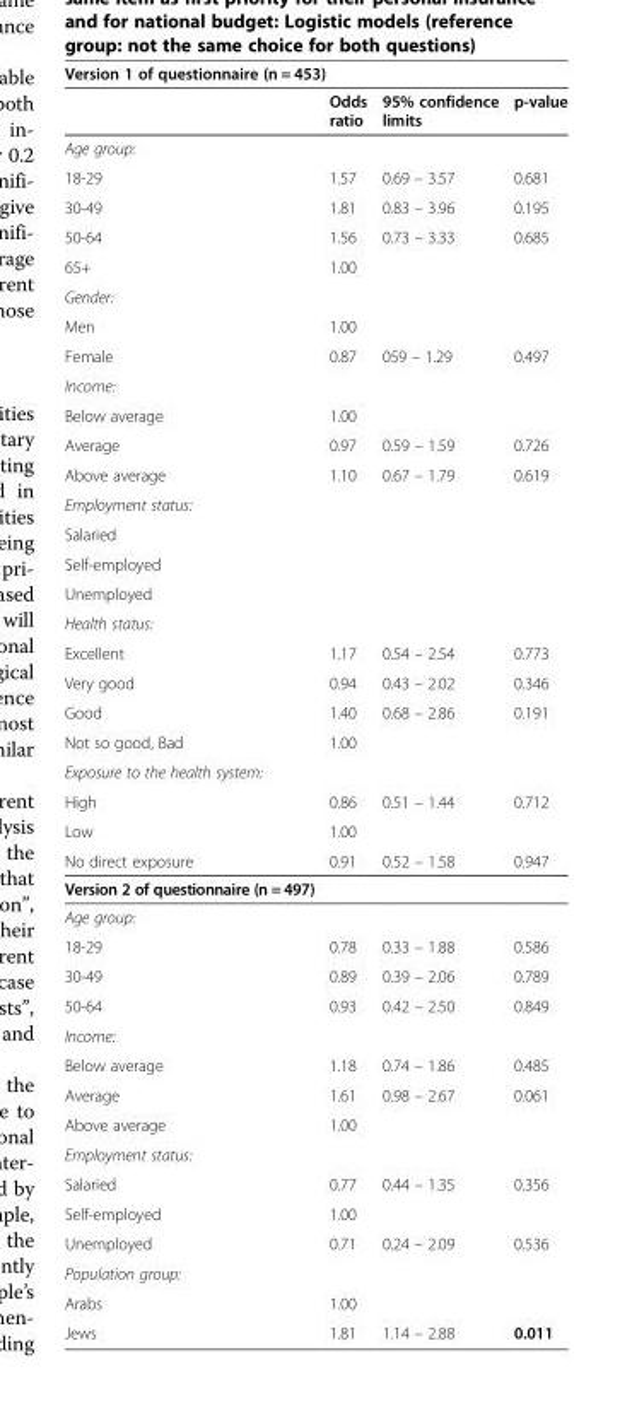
<table><thead><tr><td colspan="4">Version 1 of questionnaire (n = 453)</td></tr><tr><td></td><td>Odds ratio</td><td>95% confidence limits</td><td>p-value</td></tr></thead><tbody><tr><td colspan="4">Age group:</td></tr><tr><td>18-29</td><td>1.57</td><td>0.69 – 3.57</td><td>0.681</td></tr><tr><td>30-49</td><td>1.81</td><td>0.83 – 3.96</td><td>0.195</td></tr><tr><td>50-64</td><td>1.56</td><td>0.73 – 3.33</td><td>0.685</td></tr><tr><td>65+</td><td>1.00</td><td></td><td></td></tr><tr><td colspan="4">Gender:</td></tr><tr><td>Men</td><td>1.00</td><td></td><td></td></tr><tr><td>Female</td><td>0.87</td><td>059 – 1.29</td><td>0.497</td></tr><tr><td colspan="4">Income:</td></tr><tr><td>Below average</td><td>1.00</td><td></td><td></td></tr><tr><td>Average</td><td>0.97</td><td>0.59 – 1.59</td><td>0.726</td></tr><tr><td>Above average</td><td>1.10</td><td>0.67 – 1.79</td><td>0.619</td></tr><tr><td colspan="4">Employment status:</td></tr><tr><td colspan="4">Salaried</td></tr><tr><td colspan="4">Self-employed</td></tr><tr><td colspan="4">Unemployed</td></tr><tr><td colspan="4">Health status:</td></tr><tr><td>Excellent</td><td>1.17</td><td>0.54 – 2.54</td><td>0.773</td></tr><tr><td>Very good</td><td>0.94</td><td>0.43 – 2.02</td><td>0.346</td></tr><tr><td>Good</td><td>1.40</td><td>0.68 – 2.86</td><td>0.191</td></tr><tr><td>Not so good, Bad</td><td>1.00</td><td></td><td></td></tr><tr><td colspan="4">Exposure to the health system:</td></tr><tr><td>High</td><td>0.86</td><td>0.51 – 1.44</td><td>0.712</td></tr><tr><td>Low</td><td>1.00</td><td></td><td></td></tr><tr><td>No direct exposure</td><td>0.91</td><td>0.52 – 1.58</td><td>0.947</td></tr><tr><td colspan="4">Version 2 of questionnaire (n = 497)</td></tr><tr><td colspan="4">Age group:</td></tr><tr><td>18-29</td><td>0.78</td><td>0.33 – 1.88</td><td>0.586</td></tr><tr><td>30-49</td><td>0.89</td><td>0.39 – 2.06</td><td>0.789</td></tr><tr><td>50-64</td><td>0.93</td><td>0.42 – 2.50</td><td>0.849</td></tr><tr><td colspan="4">Income:</td></tr><tr><td>Below average</td><td>1.18</td><td>0.74 – 1.86</td><td>0.485</td></tr><tr><td>Average</td><td>1.61</td><td>0.98 – 2.67</td><td>0.061</td></tr><tr><td>Above average</td><td>1.00</td><td></td><td></td></tr><tr><td colspan="4">Employment status:</td></tr><tr><td>Salaried</td><td>0.77</td><td>0.44 – 1.35</td><td>0.356</td></tr><tr><td>Self-employed</td><td>1.00</td><td></td><td></td></tr><tr><td>Unemployed</td><td>0.71</td><td>0.24 – 2.09</td><td>0.536</td></tr><tr><td colspan="4">Population group:</td></tr><tr><td>Arabs</td><td>1.00</td><td></td><td></td></tr><tr><td>Jews</td><td>1.81</td><td>1.14 – 2.88</td><td>0.011</td></tr></tbody></table>